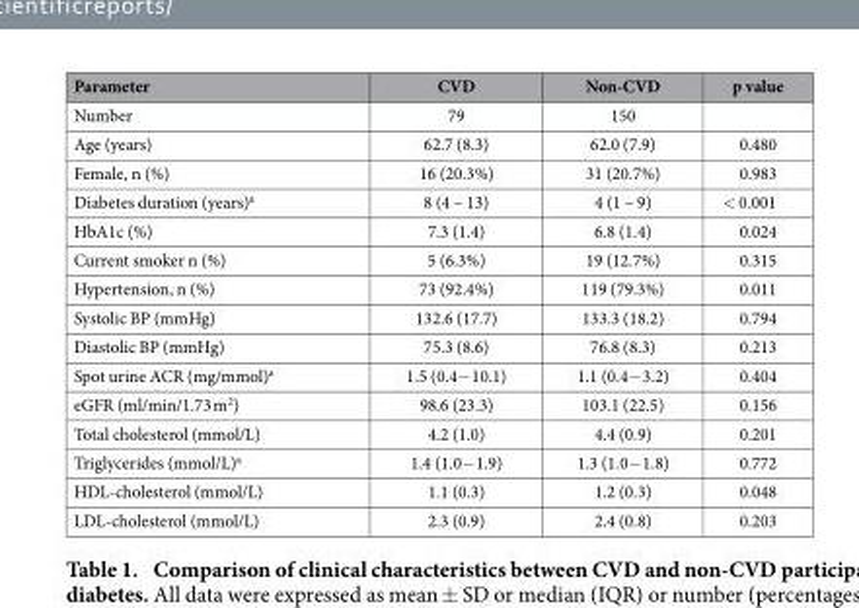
<table><thead><tr><td>Parameter</td><td>CVD</td><td>Non-CVD</td><td>p value</td></tr></thead><tbody><tr><td>Number</td><td>79</td><td>150</td><td></td></tr><tr><td>Age (years)</td><td>62.7 (8.3)</td><td>62.0 (7.9)</td><td>0.480</td></tr><tr><td>Female, n (%)</td><td>16 (20.3%)</td><td>31 (20.7%)</td><td>0.983</td></tr><tr><td>Diabetes duration (years)<sup>a</sup></td><td>8 (4 – 13)</td><td>4 (1 – 9)</td><td>&lt; 0.001</td></tr><tr><td>HbA1c (%)</td><td>7.3 (1.4)</td><td>6.8 (1.4)</td><td>0.024</td></tr><tr><td>Current smoker n (%)</td><td>5 (6.3%)</td><td>19 (12.7%)</td><td>0.315</td></tr><tr><td>Hypertension, n (%)</td><td>73 (92.4%)</td><td>119 (79.3%)</td><td>0.011</td></tr><tr><td>Systolic BP (mmHg)</td><td>132.6 (17.7)</td><td>133.3 (18.2)</td><td>0.794</td></tr><tr><td>Diastolic BP (mmHg)</td><td>75.3 (8.6)</td><td>76.8 (8.3)</td><td>0.213</td></tr><tr><td>Spot urine ACR (mg/mmol)<sup>a</sup></td><td>1.5 (0.4− 10.1)</td><td>1.1 (0.4− 3.2)</td><td>0.404</td></tr><tr><td>eGFR (ml/min/1.73 m<sup>2</sup>)</td><td>98.6 (23.3)</td><td>103.1 (22.5)</td><td>0.156</td></tr><tr><td>Total cholesterol (mmol/L)</td><td>4.2 (1.0)</td><td>4.4 (0.9)</td><td>0.201</td></tr><tr><td>Triglycerides (mmol/L)<sup>a</sup></td><td>1.4 (1.0− 1.9)</td><td>1.3 (1.0− 1.8)</td><td>0.772</td></tr><tr><td>HDL-cholesterol (mmol/L)</td><td>1.1 (0.3)</td><td>1.2 (0.3)</td><td>0.048</td></tr><tr><td>LDL-cholesterol (mmol/L)</td><td>2.3 (0.9)</td><td>2.4 (0.8)</td><td>0.203</td></tr></tbody></table>